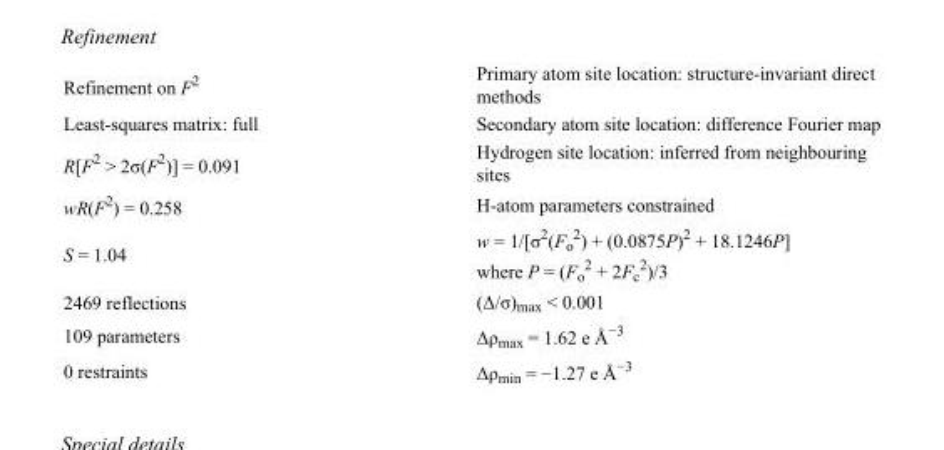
<table><tbody><tr><td>Refinement on F<sup>2</sup></td><td>Primary atom site location: structure-invariant direct methods</td></tr><tr><td>Least-squares matrix: full</td><td>Secondary atom site location: difference Fourier map</td></tr><tr><td>R[F<sup>2</sup> &gt; 2σ(F<sup>2</sup>)] = 0.091</td><td>Hydrogen site location: inferred from neighbouring sites</td></tr><tr><td>wR(F<sup>2</sup>) = 0.258</td><td>H-atom parameters constrained</td></tr><tr><td>S = 1.04</td><td>w = 1/[σ<sup>2</sup>(F<sub>o</sub> <sup>2</sup>) + (0.0875P)<sup>2</sup> + 18.1246P] where P = (F<sub>o</sub> <sup>2</sup> + 2F<sub>c</sub> <sup>2</sup>)/3</td></tr><tr><td>2469 reflections</td><td>(Δ/σ)<sub>max</sub> &lt; 0.001</td></tr><tr><td>109 parameters</td><td>Δρ<sub>max</sub> = 1.62 e Å<sup>−3</sup></td></tr><tr><td>0 restraints</td><td>Δρ<sub>min</sub> = −1.27 e Å<sup>−3</sup></td></tr></tbody></table>